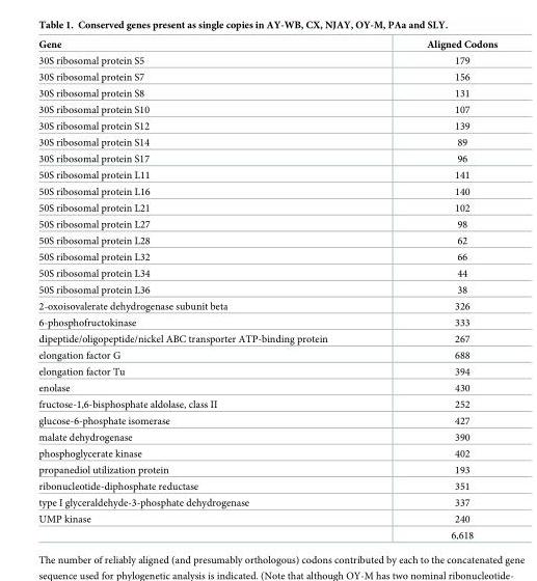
<table><thead><tr><td>Gene</td><td>Aligned Codons</td></tr></thead><tbody><tr><td>30S ribosomal protein S5</td><td>179</td></tr><tr><td>30S ribosomal protein S7</td><td>156</td></tr><tr><td>30S ribosomal protein S8</td><td>131</td></tr><tr><td>30S ribosomal protein S10</td><td>107</td></tr><tr><td>30S ribosomal protein S12</td><td>139</td></tr><tr><td>30S ribosomal protein S14</td><td>89</td></tr><tr><td>30S ribosomal protein S17</td><td>96</td></tr><tr><td>50S ribosomal protein L11</td><td>141</td></tr><tr><td>50S ribosomal protein L16</td><td>140</td></tr><tr><td>50S ribosomal protein L21</td><td>102</td></tr><tr><td>50S ribosomal protein L27</td><td>98</td></tr><tr><td>50S ribosomal protein L28</td><td>62</td></tr><tr><td>50S ribosomal protein L32</td><td>66</td></tr><tr><td>50S ribosomal protein L34</td><td>44</td></tr><tr><td>50S ribosomal protein L36</td><td>38</td></tr><tr><td>2-oxoisovalerate dehydrogenase subunit beta</td><td>326</td></tr><tr><td>6-phosphofructokinase</td><td>333</td></tr><tr><td>dipeptide/oligopeptide/nickel ABC transporter ATP-binding protein</td><td>267</td></tr><tr><td>elongation factor G</td><td>688</td></tr><tr><td>elongation factor Tu</td><td>394</td></tr><tr><td>enolase</td><td>430</td></tr><tr><td>fructose-1,6-bisphosphate aldolase, class II</td><td>252</td></tr><tr><td>glucose-6-phosphate isomerase</td><td>427</td></tr><tr><td>malate dehydrogenase</td><td>390</td></tr><tr><td>phosphoglycerate kinase</td><td>402</td></tr><tr><td>propanediol utilization protein</td><td>193</td></tr><tr><td>ribonucleotide-diphosphate reductase</td><td>351</td></tr><tr><td>type I glyceraldehyde-3-phosphate dehydrogenase</td><td>337</td></tr><tr><td rowspan="2">UMP kinase</td><td>240</td></tr><tr><td>6,618</td></tr></tbody></table>